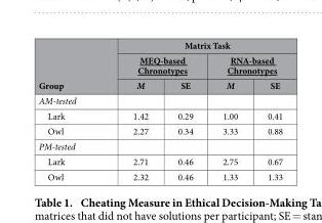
<table><thead><tr><td rowspan="3">Group</td><td colspan="4">Matrix Task</td></tr><tr><td colspan="2">MEQ-based Chronotypes</td><td colspan="2">RNA-based Chronotypes</td></tr><tr><td>M</td><td>SE</td><td>M</td><td>SE</td></tr></thead><tbody><tr><td colspan="5">AM-tested</td></tr><tr><td>Lark</td><td>1.42</td><td>0.29</td><td>1.00</td><td>0.41</td></tr><tr><td>Owl</td><td>2.27</td><td>0.34</td><td>3.33</td><td>0.88</td></tr><tr><td colspan="5">PM-tested</td></tr><tr><td>Lark</td><td>2.71</td><td>0.46</td><td>2.75</td><td>0.67</td></tr><tr><td>Owl</td><td>2.32</td><td>0.46</td><td>1.33</td><td>1.33</td></tr></tbody></table>